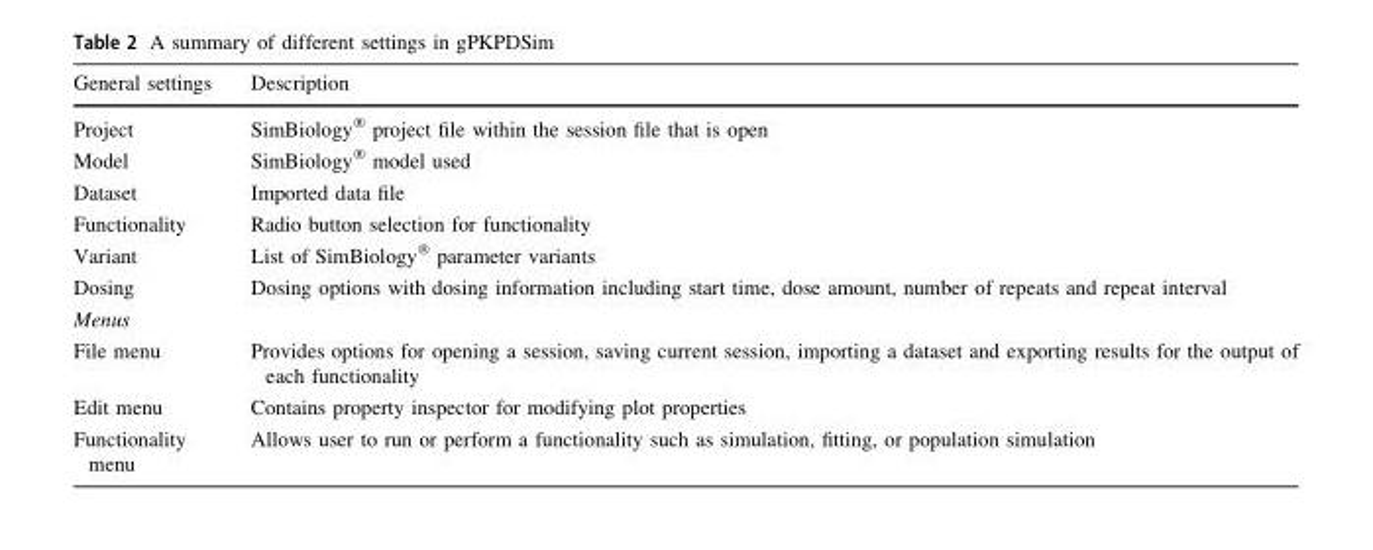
<table><thead><tr><td>General settings</td><td>Description</td></tr></thead><tbody><tr><td>Project</td><td>SimBiology<sup>®</sup> project file within the session file that is open</td></tr><tr><td>Model</td><td>SimBiology<sup>®</sup> model used</td></tr><tr><td>Dataset</td><td>Imported data file</td></tr><tr><td>Functionality</td><td>Radio button selection for functionality</td></tr><tr><td>Variant</td><td>List of SimBiology<sup>®</sup> parameter variants</td></tr><tr><td>Dosing</td><td>Dosing options with dosing information including start time, dose amount, number of repeats and repeat interval</td></tr><tr><td colspan="2">Menus</td></tr><tr><td>File menu</td><td>Provides options for opening a session, saving current session, importing a dataset and exporting results for the output of each functionality</td></tr><tr><td>Edit menu</td><td>Contains property inspector for modifying plot properties</td></tr><tr><td>Functionality menu</td><td>Allows user to run or perform a functionality such as simulation, fitting, or population simulation</td></tr></tbody></table>